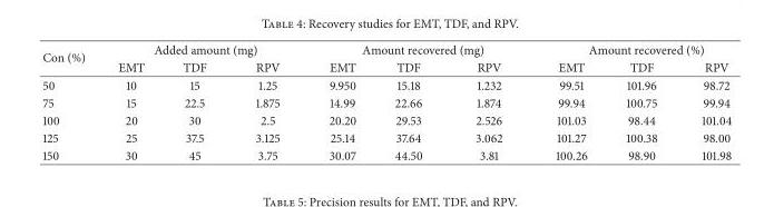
<table><thead><tr><td rowspan="2">Con (%)</td><td colspan="3">Added amount (mg)</td><td colspan="3">Amount recovered (mg)</td><td colspan="3">Amount recovered (%)</td></tr><tr><td>EMT</td><td>TDF</td><td>RPV</td><td>EMT</td><td>TDF</td><td>RPV</td><td>EMT</td><td>TDF</td><td>RPV</td></tr></thead><tbody><tr><td>50</td><td>10</td><td>15</td><td>1.25</td><td>9.950</td><td>15.18</td><td>1.232</td><td>99.51</td><td>101.96</td><td>98.72</td></tr><tr><td>75</td><td>15</td><td>22.5</td><td>1.875</td><td>14.99</td><td>22.66</td><td>1.874</td><td>99.94</td><td>100.75</td><td>99.94</td></tr><tr><td>100</td><td>20</td><td>30</td><td>2.5</td><td>20.20</td><td>29.53</td><td>2.526</td><td>101.03</td><td>98.44</td><td>101.04</td></tr><tr><td>125</td><td>25</td><td>37.5</td><td>3.125</td><td>25.14</td><td>37.64</td><td>3.062</td><td>101.27</td><td>100.38</td><td>98.00</td></tr><tr><td>150</td><td>30</td><td>45</td><td>3.75</td><td>30.07</td><td>44.50</td><td>3.81</td><td>100.26</td><td>98.90</td><td>101.98</td></tr></tbody></table>